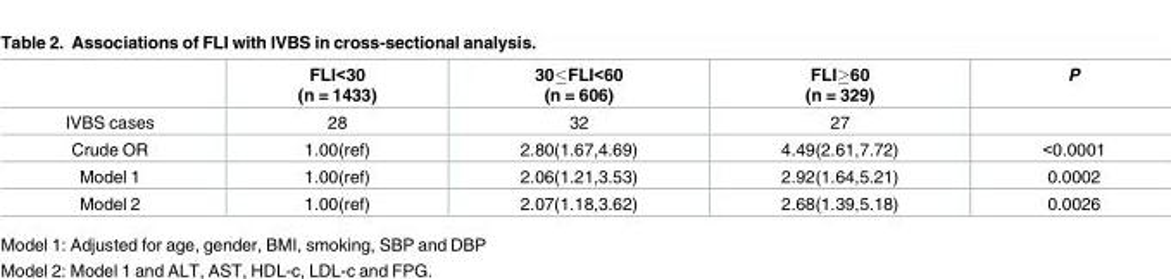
<table><thead><tr><td></td><td>FLI&lt;30 (n = 1433)</td><td>30≤FLI&lt;60 (n = 606)</td><td>FLI≥60 (n = 329)</td><td>P</td></tr></thead><tbody><tr><td>IVBS cases</td><td>28</td><td>32</td><td>27</td><td></td></tr><tr><td>Crude OR</td><td>1.00(ref)</td><td>2.80(1.67,4.69)</td><td>4.49(2.61,7.72)</td><td>&lt;0.0001</td></tr><tr><td>Model 1</td><td>1.00(ref)</td><td>2.06(1.21,3.53)</td><td>2.92(1.64,5.21)</td><td>0.0002</td></tr><tr><td>Model 2</td><td>1.00(ref)</td><td>2.07(1.18,3.62)</td><td>2.68(1.39,5.18)</td><td>0.0026</td></tr></tbody></table>